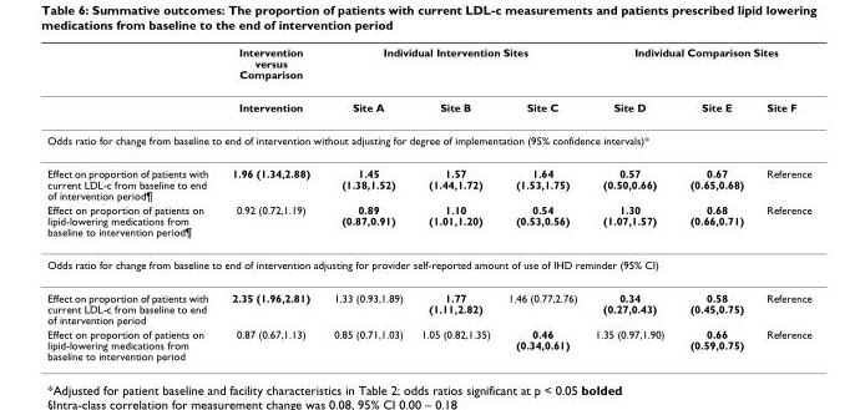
<table><thead><tr><td rowspan="2"></td><td rowspan="2">Intervention versus Comparison Intervention</td><td colspan="3">Individual Intervention Sites</td><td colspan="3">Individual Comparison Sites</td></tr><tr><td>Site A</td><td>Site B</td><td>Site C</td><td>Site D</td><td>Site E</td><td>Site F</td></tr></thead><tbody><tr><td colspan="8">Odds ratio for change from baseline to end of intervention without adjusting for degree of implementation (95% confidence intervals)*</td></tr><tr><td>Effect on proportion of patients with current LDL-c from baseline to end of intervention period¶</td><td>1.96 (1.34,2.88)</td><td>1.45 (1.38,1.52)</td><td>1.57 (1.44,1.72)</td><td>1.64 (1.53,1.75)</td><td>0.57 (0.50,0.66)</td><td>0.67 (0.65,0.68)</td><td>Reference</td></tr><tr><td>Effect on proportion of patients on lipid-lowering medications from baseline to intervention period¶</td><td>0.92 (0.72,1.19)</td><td>0.89 (0.87,0.91)</td><td>1.10 (1.01,1.20)</td><td>0.54 (0.53,0.56)</td><td>1.30 (1.07,1.57)</td><td>0.68 (0.66,0.71)</td><td>Reference</td></tr><tr><td colspan="8">Odds ratio for change from baseline to end of intervention adjusting for provider self-reported amount of use of IHD reminder (95% CI)</td></tr><tr><td>Effect on proportion of patients with current LDL-c from baseline to end of intervention period</td><td>2.35 (1.96,2.81)</td><td>1.33 (0.93,1.89)</td><td>1.77 (1.11,2.82)</td><td>1.46 (0.77,2.76)</td><td>0.34 (0.27,0.43)</td><td>0.58 (0.45,0.75)</td><td>Reference</td></tr><tr><td>Effect on proportion of patients on lipid-lowering medications from baseline to intervention period</td><td>0.87 (0.67,1.13)</td><td>0.85 (0.71,1.03)</td><td>1.05 (0.82,1.35)</td><td>0.46 (0.34,0.61)</td><td>1.35 (0.97,1.90)</td><td>0.66 (0.59,0.75)</td><td>Reference</td></tr></tbody></table>